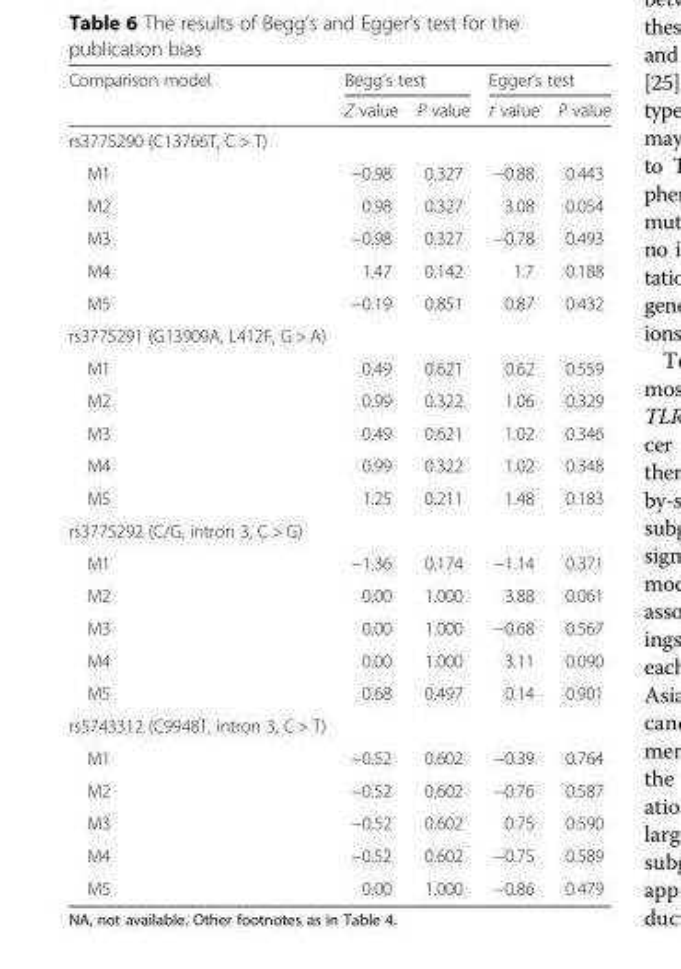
<table><thead><tr><td rowspan="2">Comparison model</td><td colspan="2">Begg’s test</td><td colspan="2">Egger’s test</td></tr><tr><td>Z value</td><td>P value</td><td>t value</td><td>P value</td></tr></thead><tbody><tr><td colspan="5">rs3775290 (C13766T, C &gt; T)</td></tr><tr><td>M1</td><td>−0.98</td><td>0.327</td><td>−0.88</td><td>0.443</td></tr><tr><td>M2</td><td>0.98</td><td>0.327</td><td>3.08</td><td>0.054</td></tr><tr><td>M3</td><td>−0.98</td><td>0.327</td><td>−0.78</td><td>0.493</td></tr><tr><td>M4</td><td>1.47</td><td>0.142</td><td>1.7</td><td>0.188</td></tr><tr><td>M5</td><td>−0.19</td><td>0.851</td><td>0.87</td><td>0.432</td></tr><tr><td colspan="5">rs3775291 (G13909A, L412F, G &gt; A)</td></tr><tr><td>M1</td><td>0.49</td><td>0.621</td><td>0.62</td><td>0.559</td></tr><tr><td>M2</td><td>0.99</td><td>0.322</td><td>1.06</td><td>0.329</td></tr><tr><td>M3</td><td>0.49</td><td>0.621</td><td>1.02</td><td>0.346</td></tr><tr><td>M4</td><td>0.99</td><td>0.322</td><td>1.02</td><td>0.348</td></tr><tr><td>M5</td><td>1.25</td><td>0.211</td><td>1.48</td><td>0.183</td></tr><tr><td colspan="5">rs3775292 (C/G, intron 3, C &gt; G)</td></tr><tr><td>M1</td><td>−1.36</td><td>0.174</td><td>−1.14</td><td>0.371</td></tr><tr><td>M2</td><td>0.00</td><td>1.000</td><td>3.88</td><td>0.061</td></tr><tr><td>M3</td><td>0.00</td><td>1.000</td><td>−0.68</td><td>0.567</td></tr><tr><td>M4</td><td>0.00</td><td>1.000</td><td>3.11</td><td>0.090</td></tr><tr><td>M5</td><td>0.68</td><td>0.497</td><td>0.14</td><td>0.901</td></tr><tr><td colspan="5">rs5743312 (C9948T, intron 3, C &gt; T)</td></tr><tr><td>M1</td><td>−0.52</td><td>0.602</td><td>−0.39</td><td>0.764</td></tr><tr><td>M2</td><td>−0.52</td><td>0.602</td><td>−0.76</td><td>0.587</td></tr><tr><td>M3</td><td>−0.52</td><td>0.602</td><td>0.75</td><td>0.590</td></tr><tr><td>M4</td><td>−0.52</td><td>0.602</td><td>−0.75</td><td>0.589</td></tr><tr><td>M5</td><td>0.00</td><td>1.000</td><td>−0.86</td><td>0.479</td></tr></tbody></table>